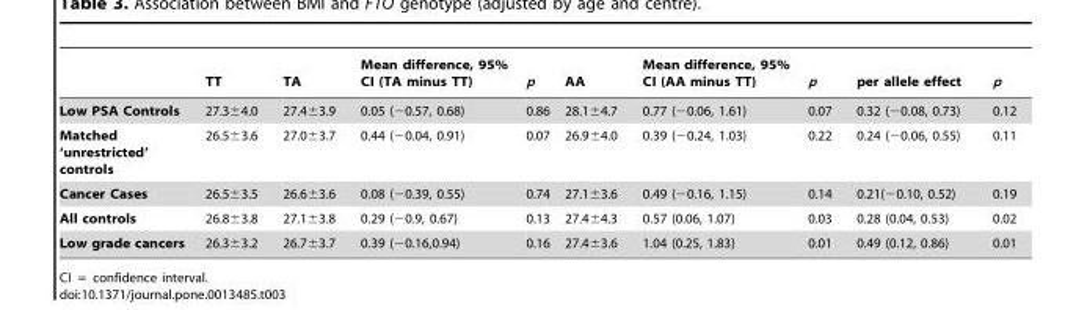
<table><thead><tr><td></td><td>TT</td><td>TA</td><td>Mean difference, 95% CI (TA minus TT)</td><td>p</td><td>AA</td><td>Mean difference, 95% CI (AA minus TT)</td><td>p</td><td>per allele effect</td><td>p</td></tr></thead><tbody><tr><td>Low PSA Controls</td><td>27.3±4.0</td><td>27.4±3.9</td><td>0.05 (−0.57, 0.68)</td><td>0.86</td><td>28.1±4.7</td><td>0.77 (−0.06, 1.61)</td><td>0.07</td><td>0.32 (−0.08, 0.73)</td><td>0.12</td></tr><tr><td>Matched ‘unrestricted’ controls</td><td>26.5±3.6</td><td>27.0±3.7</td><td>0.44 (−0.04, 0.91)</td><td>0.07</td><td>26.9±4.0</td><td>0.39 (−0.24, 1.03)</td><td>0.22</td><td>0.24 (−0.06, 0.55)</td><td>0.11</td></tr><tr><td>Cancer Cases</td><td>26.5±3.5</td><td>26.6±3.6</td><td>0.08 (−0.39, 0.55)</td><td>0.74</td><td>27.1±3.6</td><td>0.49 (−0.16, 1.15)</td><td>0.14</td><td>0.21(−0.10, 0.52)</td><td>0.19</td></tr><tr><td>All controls</td><td>26.8±3.8</td><td>27.1±3.8</td><td>0.29 (−0.9, 0.67)</td><td>0.13</td><td>27.4±4.3</td><td>0.57 (0.06, 1.07)</td><td>0.03</td><td>0.28 (0.04, 0.53)</td><td>0.02</td></tr><tr><td>Low grade cancers</td><td>26.3±3.2</td><td>26.7±3.7</td><td>0.39 (−0.16,0.94)</td><td>0.16</td><td>27.4±3.6</td><td>1.04 (0.25, 1.83)</td><td>0.01</td><td>0.49 (0.12, 0.86)</td><td>0.01</td></tr></tbody></table>